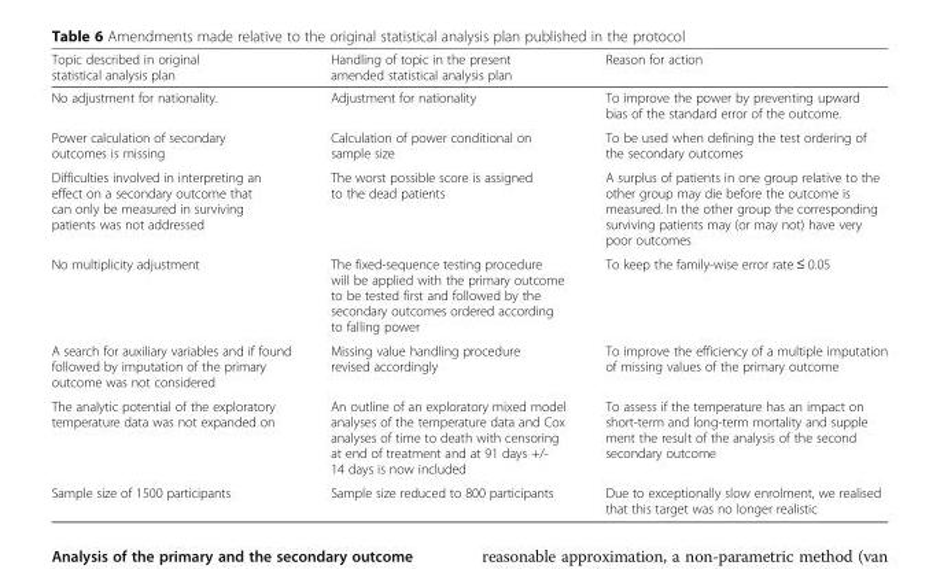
<table><thead><tr><td>Topic described in original statistical analysis plan</td><td>Handling of topic in the present amended statistical analysis plan</td><td>Reason for action</td></tr></thead><tbody><tr><td>No adjustment for nationality.</td><td>Adjustment for nationality</td><td>To improve the power by preventing upward bias of the standard error of the outcome.</td></tr><tr><td>Power calculation of secondary outcomes is missing</td><td>Calculation of power conditional on sample size</td><td>To be used when defining the test ordering of the secondary outcomes</td></tr><tr><td>Difficulties involved in interpreting an effect on a secondary outcome that can only be measured in surviving patients was not addressed</td><td>The worst possible score is assigned to the dead patients</td><td>A surplus of patients in one group relative to the other group may die before the outcome is measured. In the other group the corresponding surviving patients may (or may not) have very poor outcomes</td></tr><tr><td>No multiplicity adjustment</td><td>The fixed-sequence testing procedure will be applied with the primary outcome to be tested first and followed by the secondary outcomes ordered according to falling power</td><td>To keep the family-wise error rate ≤ 0.05</td></tr><tr><td>A search for auxiliary variables and if found followed by imputation of the primary outcome was not considered</td><td>Missing value handling procedure revised accordingly</td><td>To improve the efficiency of a multiple imputation of missing values of the primary outcome</td></tr><tr><td>The analytic potential of the exploratory temperature data was not expanded on</td><td>An outline of an exploratory mixed model analyses of the temperature data and Cox analyses of time to death with censoring at end of treatment and at 91 days +/- 14 days is now included</td><td>To assess if the temperature has an impact on short-term and long-term mortality and supple ment the result of the analysis of the second secondary outcome</td></tr><tr><td>Sample size of 1500 participants</td><td>Sample size reduced to 800 participants</td><td>Due to exceptionally slow enrolment, we realised that this target was no longer realistic</td></tr></tbody></table>